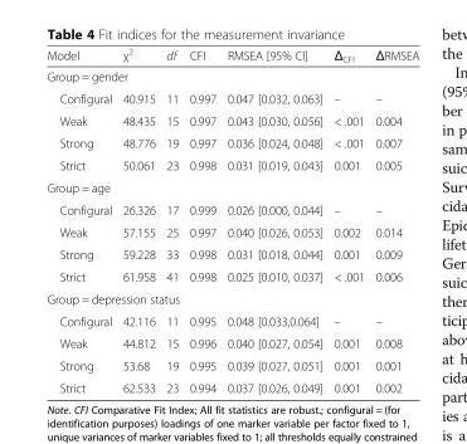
<table><thead><tr><td>Model</td><td>χ<sup>2</sup></td><td>df</td><td>CFI</td><td>RMSEA [95% CI]</td><td>Δ<sub>CFI</sub></td><td>ΔRMSEA</td></tr></thead><tbody><tr><td colspan="7">Group = gender</td></tr><tr><td>Configural</td><td>40.915</td><td>11</td><td>0.997</td><td>0.047 [0.032, 0.063]</td><td>–</td><td>–</td></tr><tr><td>Weak</td><td>48.435</td><td>15</td><td>0.997</td><td>0.043 [0.030, 0.056]</td><td>&lt; .001</td><td>0.004</td></tr><tr><td>Strong</td><td>48.776</td><td>19</td><td>0.997</td><td>0.036 [0.024, 0.048]</td><td>&lt; .001</td><td>0.007</td></tr><tr><td>Strict</td><td>50.061</td><td>23</td><td>0.998</td><td>0.031 [0.019, 0.043]</td><td>0.001</td><td>0.005</td></tr><tr><td colspan="7">Group = age</td></tr><tr><td>Configural</td><td>26.326</td><td>17</td><td>0.999</td><td>0.026 [0.000, 0.044]</td><td>–</td><td>–</td></tr><tr><td>Weak</td><td>57.155</td><td>25</td><td>0.997</td><td>0.040 [0.026, 0.053]</td><td>0.002</td><td>0.014</td></tr><tr><td>Strong</td><td>59.228</td><td>33</td><td>0.998</td><td>0.031 [0.018, 0.044]</td><td>0.001</td><td>0.009</td></tr><tr><td>Strict</td><td>61.958</td><td>41</td><td>0.998</td><td>0.025 [0.010, 0.037]</td><td>&lt; .001</td><td>0.006</td></tr><tr><td colspan="7">Group = depression status</td></tr><tr><td>Configural</td><td>42.116</td><td>11</td><td>0.995</td><td>0.048 [0.033,0.064]</td><td>–</td><td>–</td></tr><tr><td>Weak</td><td>44.812</td><td>15</td><td>0.996</td><td>0.040 [0.027, 0.054]</td><td>0.001</td><td>0.008</td></tr><tr><td>Strong</td><td>53.68</td><td>19</td><td>0.995</td><td>0.039 [0.027, 0.051]</td><td>0.001</td><td>0.001</td></tr><tr><td>Strict</td><td>62.533</td><td>23</td><td>0.994</td><td>0.037 [0.026, 0.049]</td><td>0.001</td><td>0.002</td></tr></tbody></table>